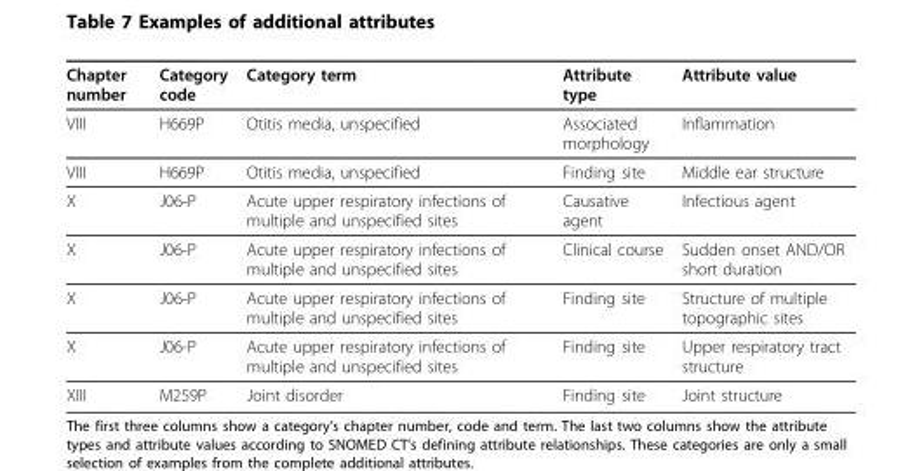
<table><thead><tr><td>Chapter number</td><td>Category code</td><td>Category term</td><td>Attribute type</td><td>Attribute value</td></tr></thead><tbody><tr><td>VIII</td><td>H669P</td><td>Otitis media, unspecified</td><td>Associated morphology</td><td>Inflammation</td></tr><tr><td>VIII</td><td>H669P</td><td>Otitis media, unspecified</td><td>Finding site</td><td>Middle ear structure</td></tr><tr><td>X</td><td>J06-P</td><td>Acute upper respiratory infections of multiple and unspecified sites</td><td>Causative agent</td><td>Infectious agent</td></tr><tr><td>X</td><td>J06-P</td><td>Acute upper respiratory infections of multiple and unspecified sites</td><td>Clinical course</td><td>Sudden onset AND/OR short duration</td></tr><tr><td>X</td><td>J06-P</td><td>Acute upper respiratory infections of multiple and unspecified sites</td><td>Finding site</td><td>Structure of multiple topographic sites</td></tr><tr><td>X</td><td>J06-P</td><td>Acute upper respiratory infections of multiple and unspecified sites</td><td>Finding site</td><td>Upper respiratory tract structure</td></tr><tr><td>XIII</td><td>M259P</td><td>Joint disorder</td><td>Finding site</td><td>Joint structure</td></tr></tbody></table>